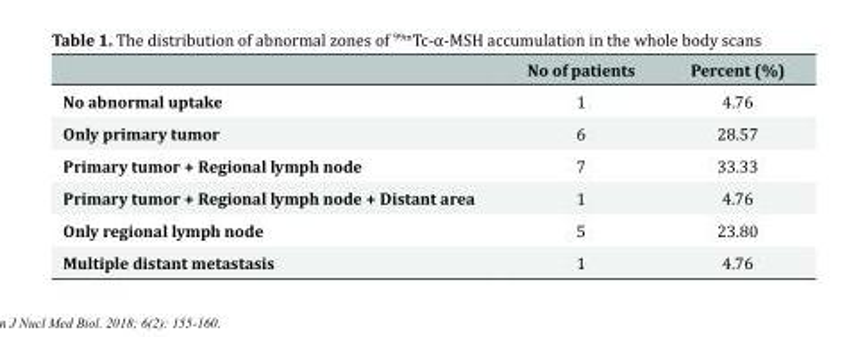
<table><thead><tr><td></td><td>No of patients</td><td>Percent (%)</td></tr></thead><tbody><tr><td>No abnormal uptake</td><td>1</td><td>4.76</td></tr><tr><td>Only primary tumor</td><td>6</td><td>28.57</td></tr><tr><td>Primary tumor + Regional lymph node</td><td>7</td><td>33.33</td></tr><tr><td>Primary tumor + Regional lymph node + Distant area</td><td>1</td><td>4.76</td></tr><tr><td>Only regional lymph node</td><td>5</td><td>23.80</td></tr><tr><td>Multiple distant metastasis</td><td>1</td><td>4.76</td></tr></tbody></table>